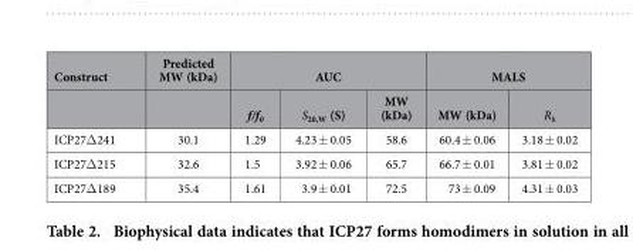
<table><thead><tr><td rowspan="2">Construct</td><td rowspan="2">Predicted MW (kDa)</td><td colspan="3">AUC</td><td colspan="2">MALS</td></tr><tr><td>f/f<sub>0</sub></td><td>S<sub>20,W</sub> (S)</td><td>MW (kDa)</td><td>MW (kDa)</td><td>R<sub>h</sub></td></tr></thead><tbody><tr><td>ICP27Δ 241</td><td>30.1</td><td>1.29</td><td>4.23 ± 0.05</td><td>58.6</td><td>60.4 ± 0.06</td><td>3.18 ± 0.02</td></tr><tr><td>ICP27Δ 215</td><td>32.6</td><td>1.5</td><td>3.92 ± 0.06</td><td>65.7</td><td>66.7 ± 0.01</td><td>3.81 ± 0.02</td></tr><tr><td>ICP27Δ 189</td><td>35.4</td><td>1.61</td><td>3.9 ± 0.01</td><td>72.5</td><td>73 ± 0.09</td><td>4.31 ± 0.03</td></tr></tbody></table>